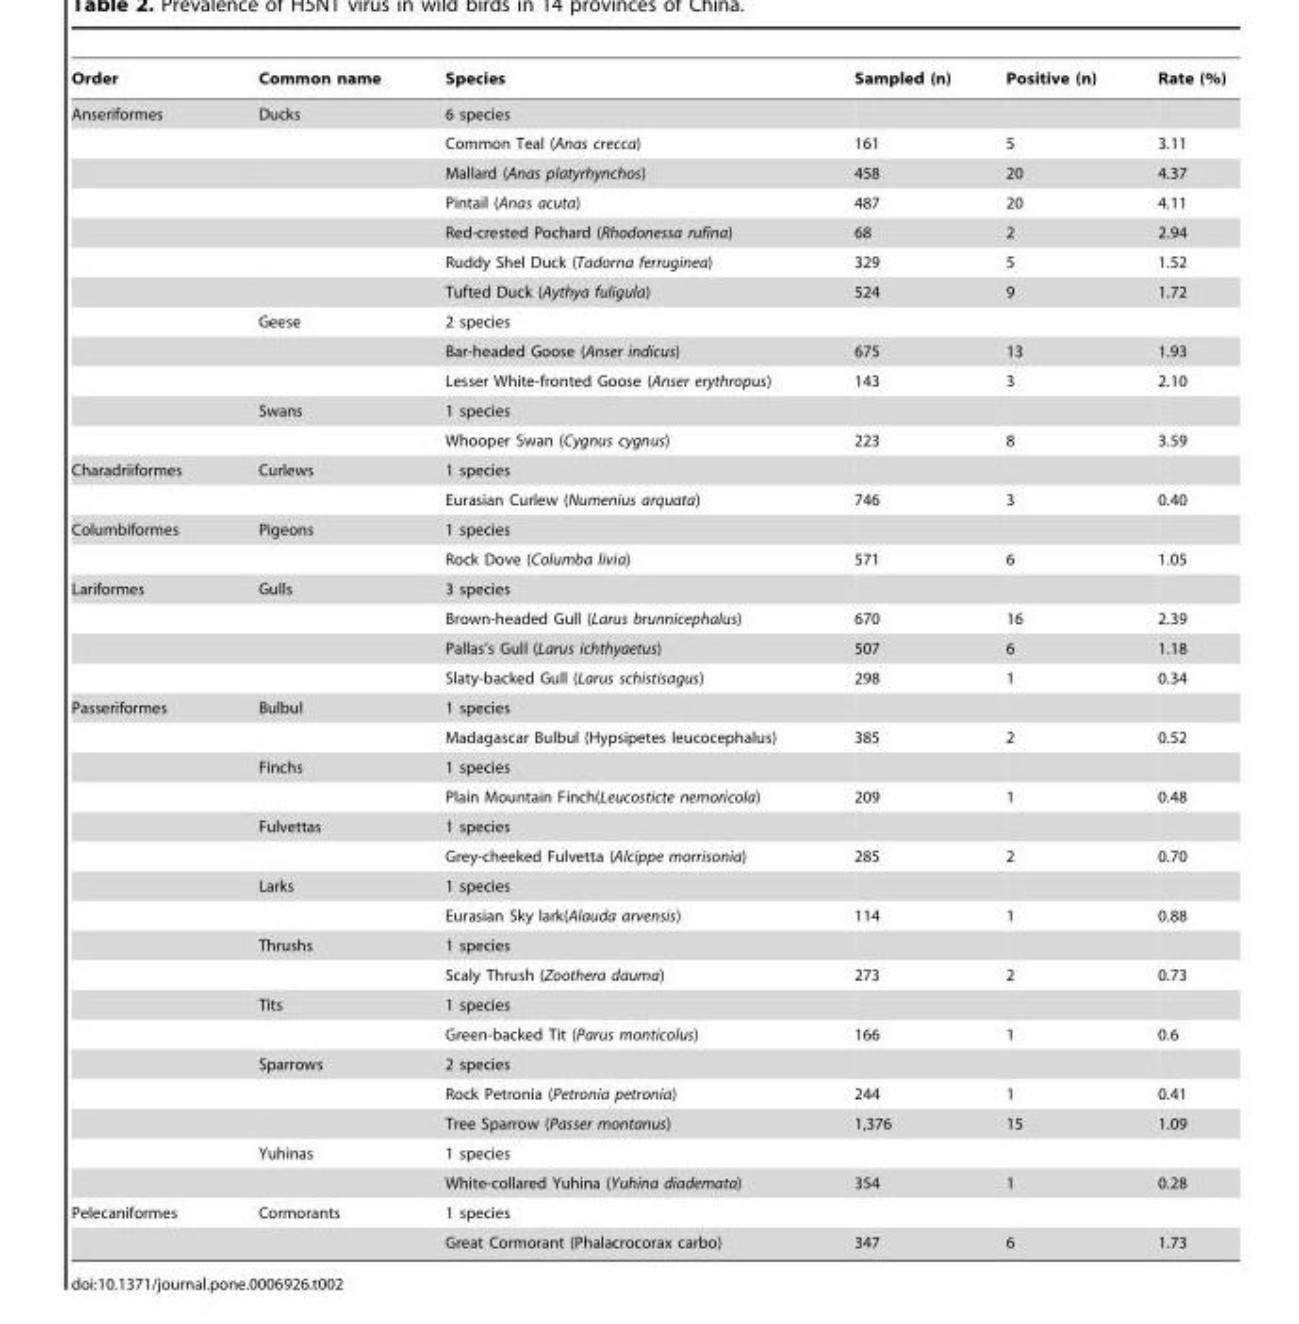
<table><thead><tr><td>Order</td><td>Common name</td><td>Species</td><td>Sampled (n)</td><td>Positive (n)</td><td>Rate (%)</td></tr></thead><tbody><tr><td rowspan="12">Anseriformes</td><td>Ducks</td><td>6 species</td><td></td><td></td><td></td></tr><tr><td></td><td>Common Teal (Anas crecca)</td><td>161</td><td>5</td><td>3.11</td></tr><tr><td></td><td>Mallard (Anas platyrhynchos)</td><td>458</td><td>20</td><td>4.37</td></tr><tr><td></td><td>Pintail (Anas acuta)</td><td>487</td><td>20</td><td>4.11</td></tr><tr><td></td><td>Red-crested Pochard (Rhodonessa rufina)</td><td>68</td><td>2</td><td>2.94</td></tr><tr><td></td><td>Ruddy Shel Duck (Tadorna ferruginea)</td><td>329</td><td>5</td><td>1.52</td></tr><tr><td></td><td>Tufted Duck (Aythya fuligula)</td><td>524</td><td>9</td><td>1.72</td></tr><tr><td>Geese</td><td>2 species</td><td></td><td></td><td></td></tr><tr><td></td><td>Bar-headed Goose (Anser indicus)</td><td>675</td><td>13</td><td>1.93</td></tr><tr><td></td><td>Lesser White-fronted Goose (Anser erythropus)</td><td>143</td><td>3</td><td>2.10</td></tr><tr><td>Swans</td><td>1 species</td><td></td><td></td><td></td></tr><tr><td></td><td>Whooper Swan (Cygnus cygnus)</td><td>223</td><td>8</td><td>3.59</td></tr><tr><td rowspan="2">Charadriiformes</td><td>Curlews</td><td>1 species</td><td></td><td></td><td></td></tr><tr><td></td><td>Eurasian Curlew (Numenius arquata)</td><td>746</td><td>3</td><td>0.40</td></tr><tr><td rowspan="2">Columbiformes</td><td>Pigeons</td><td>1 species</td><td></td><td></td><td></td></tr><tr><td></td><td>Rock Dove (Columba livia)</td><td>571</td><td>6</td><td>1.05</td></tr><tr><td rowspan="4">Lariformes</td><td>Gulls</td><td>3 species</td><td></td><td></td><td></td></tr><tr><td></td><td>Brown-headed Gull (Larus brunnicephalus)</td><td>670</td><td>16</td><td>2.39</td></tr><tr><td></td><td>Pallas’s Gull (Larus ichthyaetus)</td><td>507</td><td>6</td><td>1.18</td></tr><tr><td></td><td>Slaty-backed Gull (Larus schistisagus)</td><td>298</td><td>1</td><td>0.34</td></tr><tr><td rowspan="17">Passeriformes</td><td>Bulbul</td><td>1 species</td><td></td><td></td><td></td></tr><tr><td></td><td>Madagascar Bulbul (Hypsipetes leucocephalus)</td><td>385</td><td>2</td><td>0.52</td></tr><tr><td>Finchs</td><td>1 species</td><td></td><td></td><td></td></tr><tr><td></td><td>Plain Mountain Finch(Leucosticte nemoricola)</td><td>209</td><td>1</td><td>0.48</td></tr><tr><td>Fulvettas</td><td>1 species</td><td></td><td></td><td></td></tr><tr><td></td><td>Grey-cheeked Fulvetta (Alcippe morrisonia)</td><td>285</td><td>2</td><td>0.70</td></tr><tr><td>Larks</td><td>1 species</td><td></td><td></td><td></td></tr><tr><td></td><td>Eurasian Sky lark(Alauda arvensis)</td><td>114</td><td>1</td><td>0.88</td></tr><tr><td>Thrushs</td><td>1 species</td><td></td><td></td><td></td></tr><tr><td></td><td>Scaly Thrush (Zoothera dauma)</td><td>273</td><td>2</td><td>0.73</td></tr><tr><td>Tits</td><td>1 species</td><td></td><td></td><td></td></tr><tr><td></td><td>Green-backed Tit (Parus monticolus)</td><td>166</td><td>1</td><td>0.6</td></tr><tr><td>Sparrows</td><td>2 species</td><td></td><td></td><td></td></tr><tr><td></td><td>Rock Petronia (Petronia petronia)</td><td>244</td><td>1</td><td>0.41</td></tr><tr><td></td><td>Tree Sparrow (Passer montanus)</td><td>1,376</td><td>15</td><td>1.09</td></tr><tr><td>Yuhinas</td><td>1 species</td><td></td><td></td><td></td></tr><tr><td></td><td>White-collared Yuhina (Yuhina diademata)</td><td>354</td><td>1</td><td>0.28</td></tr><tr><td rowspan="2">Pelecaniformes</td><td>Cormorants</td><td>1 species</td><td></td><td></td><td></td></tr><tr><td></td><td>Great Cormorant (Phalacrocorax carbo)</td><td>347</td><td>6</td><td>1.73</td></tr></tbody></table>